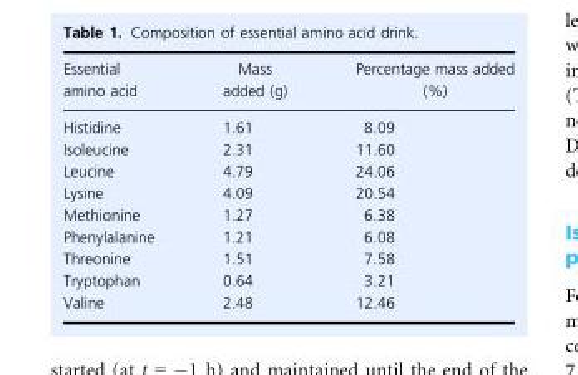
<table><thead><tr><td>Essential amino acid</td><td>Mass added (g)</td><td>Percentage mass added (%)</td></tr></thead><tbody><tr><td>Histidine</td><td>1.61</td><td>8.09</td></tr><tr><td>Isoleucine</td><td>2.31</td><td>11.60</td></tr><tr><td>Leucine</td><td>4.79</td><td>24.06</td></tr><tr><td>Lysine</td><td>4.09</td><td>20.54</td></tr><tr><td>Methionine</td><td>1.27</td><td>6.38</td></tr><tr><td>Phenylalanine</td><td>1.21</td><td>6.08</td></tr><tr><td>Threonine</td><td>1.51</td><td>7.58</td></tr><tr><td>Tryptophan</td><td>0.64</td><td>3.21</td></tr><tr><td>Valine</td><td>2.48</td><td>12.46</td></tr></tbody></table>